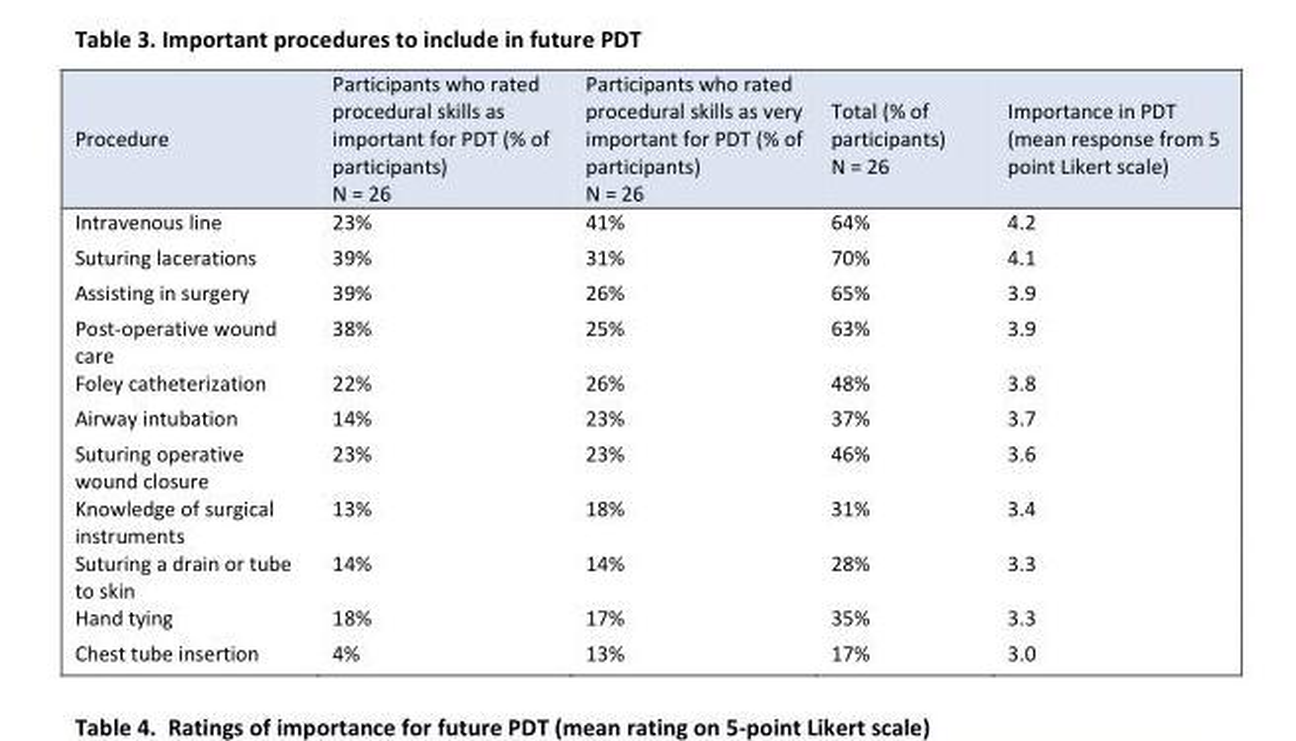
<table><thead><tr><td>Procedure</td><td>Participants who rated procedural skills as important for PDT (% of participants) N = 26</td><td>Participants who rated procedural skills as very important for PDT (% of participants) N = 26</td><td>Total (% of participants) N = 26</td><td>Importance in PDT (mean response from 5 point Likert scale)</td></tr></thead><tbody><tr><td>Intravenous line</td><td>23%</td><td>41%</td><td>64%</td><td>4.2</td></tr><tr><td>Suturing lacerations</td><td>39%</td><td>31%</td><td>70%</td><td>4.1</td></tr><tr><td>Assisting in surgery</td><td>39%</td><td>26%</td><td>65%</td><td>3.9</td></tr><tr><td>Post-operative wound care</td><td>38%</td><td>25%</td><td>63%</td><td>3.9</td></tr><tr><td>Foley catheterization</td><td>22%</td><td>26%</td><td>48%</td><td>3.8</td></tr><tr><td>Airway intubation</td><td>14%</td><td>23%</td><td>37%</td><td>3.7</td></tr><tr><td>Suturing operative wound closure</td><td>23%</td><td>23%</td><td>46%</td><td>3.6</td></tr><tr><td>Knowledge of surgical instruments</td><td>13%</td><td>18%</td><td>31%</td><td>3.4</td></tr><tr><td>Suturing a drain or tube to skin</td><td>14%</td><td>14%</td><td>28%</td><td>3.3</td></tr><tr><td>Hand tying</td><td>18%</td><td>17%</td><td>35%</td><td>3.3</td></tr><tr><td>Chest tube insertion</td><td>4%</td><td>13%</td><td>17%</td><td>3.0</td></tr></tbody></table>